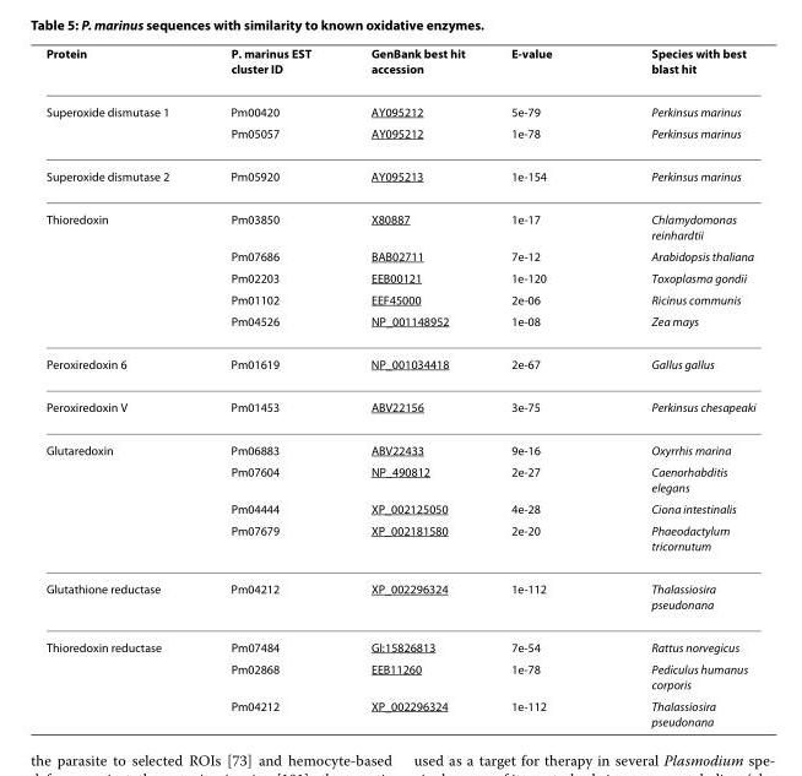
<table><thead><tr><td>Protein</td><td>P. marinus EST cluster ID</td><td>GenBank best hit accession</td><td>E-value</td><td>Species with best blast hit</td></tr></thead><tbody><tr><td rowspan="2">Superoxide dismutase 1</td><td>Pm00420</td><td>AY095212</td><td>5e-79</td><td>Perkinsus marinus</td></tr><tr><td>Pm05057</td><td>AY095212</td><td>1e-78</td><td>Perkinsus marinus</td></tr><tr><td>Superoxide dismutase 2</td><td>Pm05920</td><td>AY095213</td><td>1e-154</td><td>Perkinsus marinus</td></tr><tr><td rowspan="5">Thioredoxin</td><td>Pm03850</td><td>X80887</td><td>1e-17</td><td>Chlamydomonas reinhardtii</td></tr><tr><td>Pm07686</td><td>BAB02711</td><td>7e-12</td><td>Arabidopsis thaliana</td></tr><tr><td>Pm02203</td><td>EEB00121</td><td>1e-120</td><td>Toxoplasma gondii</td></tr><tr><td>Pm01102</td><td>EEF45000</td><td>2e-06</td><td>Ricinus communis</td></tr><tr><td>Pm04526</td><td>NP_001148952</td><td>1e-08</td><td>Zea mays</td></tr><tr><td>Peroxiredoxin 6</td><td>Pm01619</td><td>NP_001034418</td><td>2e-67</td><td>Gallus gallus</td></tr><tr><td>Peroxiredoxin V</td><td>Pm01453</td><td>ABV22156</td><td>3e-75</td><td>Perkinsus chesapeaki</td></tr><tr><td rowspan="4">Glutaredoxin</td><td>Pm06883</td><td>ABV22433</td><td>9e-16</td><td>Oxyrrhis marina</td></tr><tr><td>Pm07604</td><td>NP_490812</td><td>2e-27</td><td>Caenorhabditis elegans</td></tr><tr><td>Pm04444</td><td>XP_002125050</td><td>4e-28</td><td>Ciona intestinalis</td></tr><tr><td>Pm07679</td><td>XP_002181580</td><td>2e-20</td><td>Phaeodactylum tricornutum</td></tr><tr><td>Glutathione reductase</td><td>Pm04212</td><td>XP_002296324</td><td>1e-112</td><td>Thalassiosira pseudonana</td></tr><tr><td rowspan="3">Thioredoxin reductase</td><td>Pm07484</td><td>GI:15826813</td><td>7e-54</td><td>Rattus norvegicus</td></tr><tr><td>Pm02868</td><td>EEB11260</td><td>1e-78</td><td>Pediculus humanus corporis</td></tr><tr><td>Pm04212</td><td>XP_002296324</td><td>1e-112</td><td>Thalassiosira pseudonana</td></tr></tbody></table>